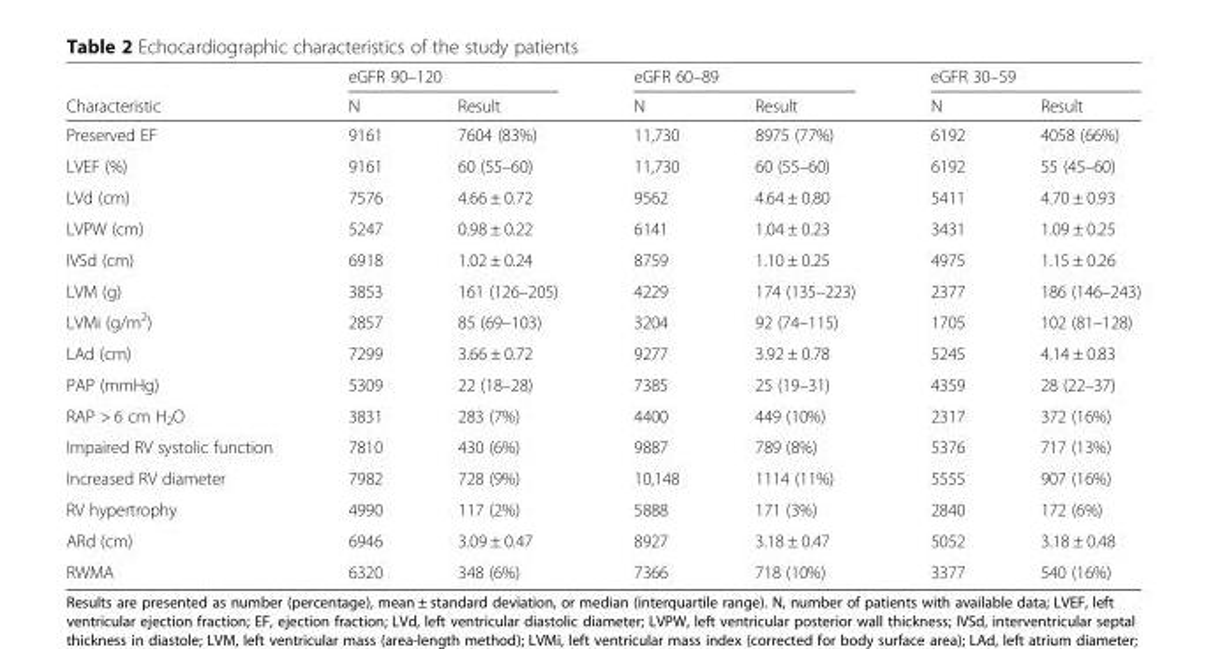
<table><thead><tr><td rowspan="2">Characteristic</td><td colspan="2">eGFR 90–120</td><td colspan="2">eGFR 60–89</td><td colspan="2">eGFR 30–59</td></tr><tr><td>N</td><td>Result</td><td>N</td><td>Result</td><td>N</td><td>Result</td></tr></thead><tbody><tr><td>Preserved EF</td><td>9161</td><td>7604 (83%)</td><td>11,730</td><td>8975 (77%)</td><td>6192</td><td>4058 (66%)</td></tr><tr><td>LVEF (%)</td><td>9161</td><td>60 (55–60)</td><td>11,730</td><td>60 (55–60)</td><td>6192</td><td>55 (45–60)</td></tr><tr><td>LVd (cm)</td><td>7576</td><td>4.66 ± 0.72</td><td>9562</td><td>4.64 ± 0.80</td><td>5411</td><td>4.70 ± 0.93</td></tr><tr><td>LVPW (cm)</td><td>5247</td><td>0.98 ± 0.22</td><td>6141</td><td>1.04 ± 0.23</td><td>3431</td><td>1.09 ± 0.25</td></tr><tr><td>IVSd (cm)</td><td>6918</td><td>1.02 ± 0.24</td><td>8759</td><td>1.10 ± 0.25</td><td>4975</td><td>1.15 ± 0.26</td></tr><tr><td>LVM (g)</td><td>3853</td><td>161 (126–205)</td><td>4229</td><td>174 (135–223)</td><td>2377</td><td>186 (146–243)</td></tr><tr><td>LVMi (g/m<sup>2</sup>)</td><td>2857</td><td>85 (69–103)</td><td>3204</td><td>92 (74–115)</td><td>1705</td><td>102 (81–128)</td></tr><tr><td>LAd (cm)</td><td>7299</td><td>3.66 ± 0.72</td><td>9277</td><td>3.92 ± 0.78</td><td>5245</td><td>4.14 ± 0.83</td></tr><tr><td>PAP (mmHg)</td><td>5309</td><td>22 (18–28)</td><td>7385</td><td>25 (19–31)</td><td>4359</td><td>28 (22–37)</td></tr><tr><td>RAP &gt; 6 cm H<sub>2</sub>O</td><td>3831</td><td>283 (7%)</td><td>4400</td><td>449 (10%)</td><td>2317</td><td>372 (16%)</td></tr><tr><td>Impaired RV systolic function</td><td>7810</td><td>430 (6%)</td><td>9887</td><td>789 (8%)</td><td>5376</td><td>717 (13%)</td></tr><tr><td>Increased RV diameter</td><td>7982</td><td>728 (9%)</td><td>10,148</td><td>1114 (11%)</td><td>5555</td><td>907 (16%)</td></tr><tr><td>RV hypertrophy</td><td>4990</td><td>117 (2%)</td><td>5888</td><td>171 (3%)</td><td>2840</td><td>172 (6%)</td></tr><tr><td>ARd (cm)</td><td>6946</td><td>3.09 ± 0.47</td><td>8927</td><td>3.18 ± 0.47</td><td>5052</td><td>3.18 ± 0.48</td></tr><tr><td>RWMA</td><td>6320</td><td>348 (6%)</td><td>7366</td><td>718 (10%)</td><td>3377</td><td>540 (16%)</td></tr></tbody></table>